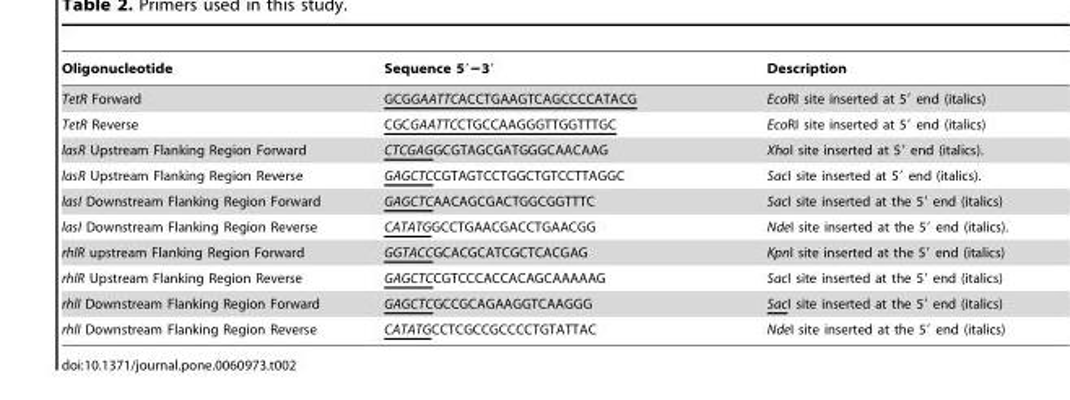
<table><thead><tr><td>Oligonucleotide</td><td>Sequence 592 239</td><td>Description</td></tr></thead><tbody><tr><td>TetR Forward</td><td>GCGGAATTCACCTGAAGTCAGCCCCATACG</td><td>EcoRI site inserted at 5′ end (italics)</td></tr><tr><td>TetR Reverse</td><td>CGCGAATTCCTGCCAAGGGTTGGTTTGC</td><td>EcoRI site inserted at 5′ end (italics)</td></tr><tr><td>lasR Upstream Flanking Region Forward</td><td>CTCGAGGCGTAGCGATGGGCAACAAG</td><td>XhoI site inserted at 5′ end (italics).</td></tr><tr><td>lasR Upstream Flanking Region Reverse</td><td>GAGCTCCGTAGTCCTGGCTGTCCTTAGGC</td><td>SacI site inserted at 5′ end (italics).</td></tr><tr><td>lasI Downstream Flanking Region Forward</td><td>GAGCTCAACAGCGACTGGCGGTTTC</td><td>SacI site inserted at the 5′ end (italics)</td></tr><tr><td>lasI Downstream Flanking Region Reverse</td><td>CATATGGCCTGAACGACCTGAACGG</td><td>NdeI site inserted at the 5′ end (italics).</td></tr><tr><td>rhlR upstream Flanking Region Forward</td><td>GGTACCGCACGCATCGCTCACGAG</td><td>KpnI site inserted at the 5′ end (italics)</td></tr><tr><td>rhlR Upstream Flanking Region Reverse</td><td>GAGCTCCGTCCCACCACAGCAAAAAG</td><td>SacI site inserted at the 5′ end (italics)</td></tr><tr><td>rhlI Downstream Flanking Region Forward</td><td>GAGCTCGCCGCAGAAGGTCAAGGG</td><td>SacI site inserted at the 5′ end (italics)</td></tr><tr><td>rhlI Downstream Flanking Region Reverse</td><td>CATATGCCTCGCCGCCCCTGTATTAC</td><td>NdeI site inserted at the 5′ end (italics)</td></tr></tbody></table>